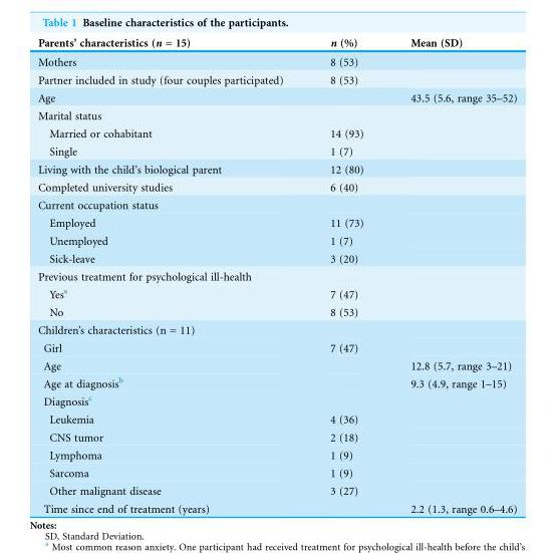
<table><thead><tr><td>Parents’ characteristics (n = 15)</td><td>n (%)</td><td>Mean (SD)</td></tr></thead><tbody><tr><td>Mothers</td><td>8 (53)</td><td></td></tr><tr><td>Partner included in study (four couples participated)</td><td>8 (53)</td><td></td></tr><tr><td>Age</td><td></td><td>43.5 (5.6, range 35–52)</td></tr><tr><td colspan="3">Marital status</td></tr><tr><td>Married or cohabitant</td><td>14 (93)</td><td></td></tr><tr><td>Single</td><td>1 (7)</td><td></td></tr><tr><td>Living with the child’s biological parent</td><td>12 (80)</td><td></td></tr><tr><td>Completed university studies</td><td>6 (40)</td><td></td></tr><tr><td colspan="3">Current occupation status</td></tr><tr><td>Employed</td><td>11 (73)</td><td></td></tr><tr><td>Unemployed</td><td>1 (7)</td><td></td></tr><tr><td>Sick-leave</td><td>3 (20)</td><td></td></tr><tr><td colspan="3">Previous treatment for psychological ill-health</td></tr><tr><td>Yes<sup>a</sup></td><td>7 (47)</td><td></td></tr><tr><td>No</td><td>8 (53)</td><td></td></tr><tr><td colspan="3">Children’s characteristics (n = 11)</td></tr><tr><td>Girl</td><td>7 (47)</td><td></td></tr><tr><td>Age</td><td></td><td>12.8 (5.7, range 3–21)</td></tr><tr><td>Age at diagnosis<sup>b</sup></td><td></td><td>9.3 (4.9, range 1–15)</td></tr><tr><td colspan="3">Diagnosis<sup>c</sup></td></tr><tr><td>Leukemia</td><td>4 (36)</td><td></td></tr><tr><td>CNS tumor</td><td>2 (18)</td><td></td></tr><tr><td>Lymphoma</td><td>1 (9)</td><td></td></tr><tr><td>Sarcoma</td><td>1 (9)</td><td></td></tr><tr><td>Other malignant disease</td><td>3 (27)</td><td></td></tr><tr><td>Time since end of treatment (years)</td><td></td><td>2.2 (1.3, range 0.6–4.6)</td></tr></tbody></table>